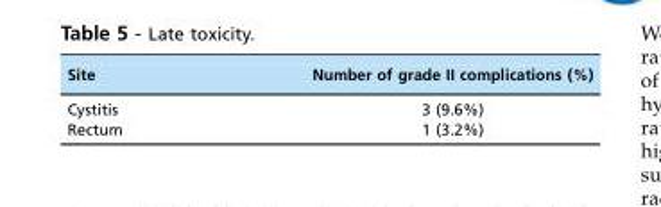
<table><thead><tr><td>Site</td><td>Number of grade II complications (%)</td></tr></thead><tbody><tr><td>Cystitis</td><td>3 (9.6%)</td></tr><tr><td>Rectum</td><td>1 (3.2%)</td></tr></tbody></table>